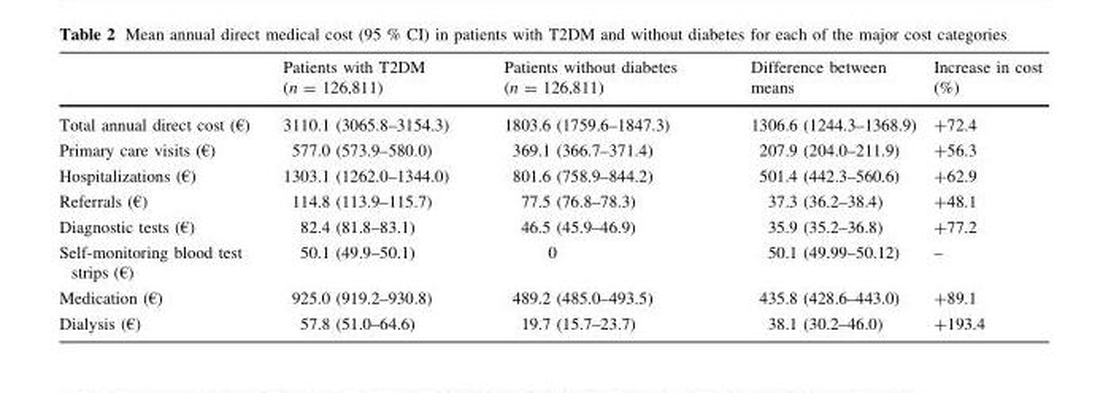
<table><thead><tr><td></td><td>Patients with T2DM (n = 126,811)</td><td>Patients without diabetes (n = 126,811)</td><td>Difference between means</td><td>Increase in cost (%)</td></tr></thead><tbody><tr><td>Total annual direct cost (€)</td><td>3110.1 (3065.8–3154.3)</td><td>1803.6 (1759.6–1847.3)</td><td>1306.6 (1244.3–1368.9)</td><td>+72.4</td></tr><tr><td>Primary care visits (€)</td><td>577.0 (573.9–580.0)</td><td>369.1 (366.7–371.4)</td><td>207.9 (204.0–211.9)</td><td>+56.3</td></tr><tr><td>Hospitalizations (€)</td><td>1303.1 (1262.0–1344.0)</td><td>801.6 (758.9–844.2)</td><td>501.4 (442.3–560.6)</td><td>+62.9</td></tr><tr><td>Referrals (€)</td><td>114.8 (113.9–115.7)</td><td>77.5 (76.8–78.3)</td><td>37.3 (36.2–38.4)</td><td>+48.1</td></tr><tr><td>Diagnostic tests (€)</td><td>82.4 (81.8–83.1)</td><td>46.5 (45.9–46.9)</td><td>35.9 (35.2–36.8)</td><td>+77.2</td></tr><tr><td>Self-monitoring blood test strips (€)</td><td>50.1 (49.9–50.1)</td><td>0</td><td>50.1 (49.99–50.12)</td><td>–</td></tr><tr><td>Medication (€)</td><td>925.0 (919.2–930.8)</td><td>489.2 (485.0–493.5)</td><td>435.8 (428.6–443.0)</td><td>+89.1</td></tr><tr><td>Dialysis (€)</td><td>57.8 (51.0–64.6)</td><td>19.7 (15.7–23.7)</td><td>38.1 (30.2–46.0)</td><td>+193.4</td></tr></tbody></table>